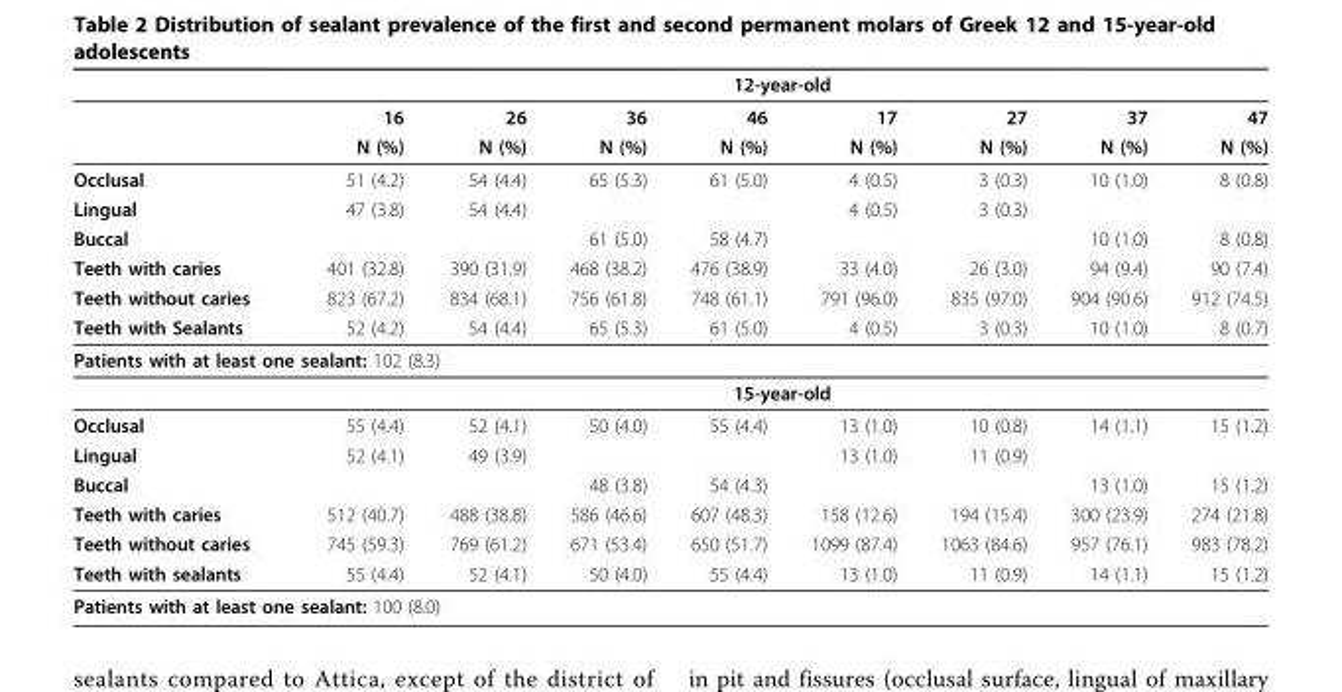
<table><thead><tr><td rowspan="2"></td><td colspan="8">12-year-old</td></tr><tr><td>16</td><td>26</td><td>36</td><td>46</td><td>17</td><td>27</td><td>37</td><td>47</td></tr></thead><tbody><tr><td></td><td>N (%)</td><td>N (%)</td><td>N (%)</td><td>N (%)</td><td>N (%)</td><td>N (%)</td><td>N (%)</td><td>N (%)</td></tr><tr><td>Occlusal</td><td>51 (4.2)</td><td>54 (4.4)</td><td>65 (5.3)</td><td>61 (5.0)</td><td>4 (0.5)</td><td>3 (0.3)</td><td>10 (1.0)</td><td>8 (0.8)</td></tr><tr><td>Lingual</td><td>47 (3.8)</td><td>54 (4.4)</td><td></td><td></td><td>4 (0.5)</td><td>3 (0.3)</td><td></td><td></td></tr><tr><td>Buccal</td><td></td><td></td><td>61 (5.0)</td><td>58 (4.7)</td><td></td><td></td><td>10 (1.0)</td><td>8 (0.8)</td></tr><tr><td>Teeth with caries</td><td>401 (32.8)</td><td>390 (31.9)</td><td>468 (38.2)</td><td>476 (38.9)</td><td>33 (4.0)</td><td>26 (3.0)</td><td>94 (9.4)</td><td>90 (7.4)</td></tr><tr><td>Teeth without caries</td><td>823 (67.2)</td><td>834 (68.1)</td><td>756 (61.8)</td><td>748 (61.1)</td><td>791 (96.0)</td><td>835 (97.0)</td><td>904 (90.6)</td><td>912 (74.5)</td></tr><tr><td>Teeth with Sealants</td><td>52 (4.2)</td><td>54 (4.4)</td><td>65 (5.3)</td><td>61 (5.0)</td><td>4 (0.5)</td><td>3 (0.3)</td><td>10 (1.0)</td><td>8 (0.7)</td></tr><tr><td colspan="9">Patients with at least one sealant: 102 (8.3)</td></tr><tr><td></td><td colspan="8">15-year-old</td></tr><tr><td>Occlusal</td><td>55 (4.4)</td><td>52 (4.1)</td><td>50 (4.0)</td><td>55 (4.4)</td><td>13 (1.0)</td><td>10 (0.8)</td><td>14 (1.1)</td><td>15 (1.2)</td></tr><tr><td>Lingual</td><td>52 (4.1)</td><td>49 (3.9)</td><td></td><td></td><td>13 (1.0)</td><td>11 (0.9)</td><td></td><td></td></tr><tr><td>Buccal</td><td></td><td></td><td>48 (3.8)</td><td>54 (4.3)</td><td></td><td></td><td>13 (1.0)</td><td>15 (1.2)</td></tr><tr><td>Teeth with caries</td><td>512 (40.7)</td><td>488 (38.8)</td><td>586 (46.6)</td><td>607 (48.3)</td><td>158 (12.6)</td><td>194 (15.4)</td><td>300 (23.9)</td><td>274 (21.8)</td></tr><tr><td>Teeth without caries</td><td>745 (59.3)</td><td>769 (61.2)</td><td>671 (53.4)</td><td>650 (51.7)</td><td>1099 (87.4)</td><td>1063 (84.6)</td><td>957 (76.1)</td><td>983 (78.2)</td></tr><tr><td>Teeth with sealants</td><td>55 (4.4)</td><td>52 (4.1)</td><td>50 (4.0)</td><td>55 (4.4)</td><td>13 (1.0)</td><td>11 (0.9)</td><td>14 (1.1)</td><td>15 (1.2)</td></tr><tr><td colspan="3">Patients with at least one sealant: 100 (8.0)</td><td></td><td></td><td></td><td></td><td></td><td></td></tr></tbody></table>